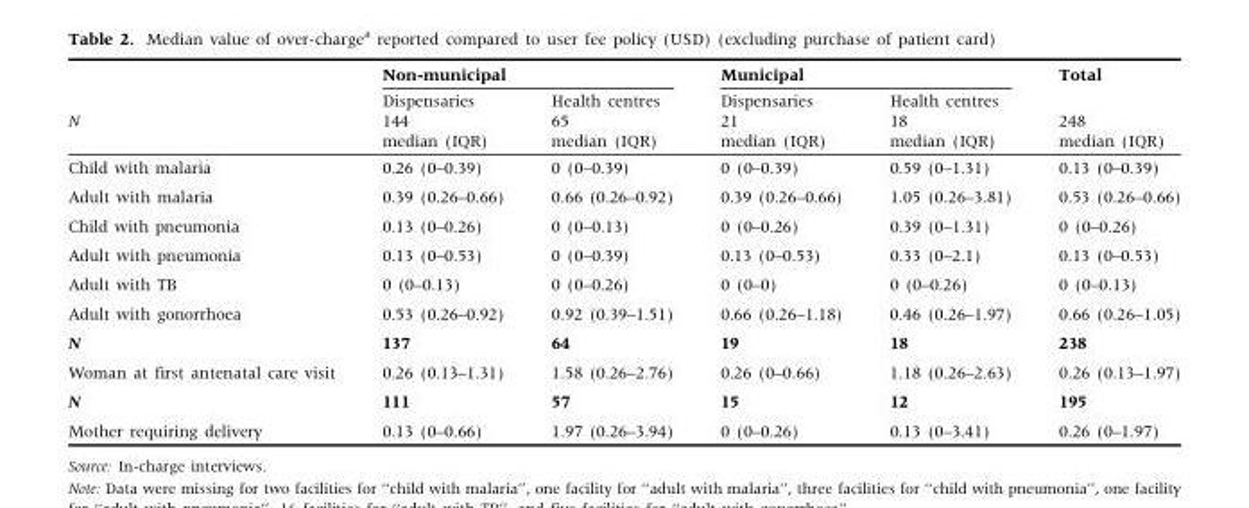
<table><thead><tr><td rowspan="4">N</td><td colspan="2">Non-municipal</td><td colspan="2">Municipal</td><td rowspan="4">Total 248 median (IQR)</td></tr><tr><td rowspan="3">Dispensaries 144 median (IQR)</td><td rowspan="3">Health centres 65 median (IQR)</td><td rowspan="3">Dispensaries 21 median (IQR)</td><td rowspan="3">Health centres 18 median (IQR)</td></tr><tr></tr><tr></tr></thead><tbody><tr><td>Child with malaria</td><td>0.26 (0–0.39)</td><td>0 (0–0.39)</td><td>0 (0–0.39)</td><td>0.59 (0–1.31)</td><td>0.13 (0–0.39)</td></tr><tr><td>Adult with malaria</td><td>0.39 (0.26–0.66)</td><td>0.66 (0.26–0.92)</td><td>0.39 (0.26–0.66)</td><td>1.05 (0.26–3.81)</td><td>0.53 (0.26–0.66)</td></tr><tr><td>Child with pneumonia</td><td>0.13 (0–0.26)</td><td>0 (0–0.13)</td><td>0 (0–0.26)</td><td>0.39 (0–1.31)</td><td>0 (0–0.26)</td></tr><tr><td>Adult with pneumonia</td><td>0.13 (0–0.53)</td><td>0 (0–0.39)</td><td>0.13 (0–0.53)</td><td>0.33 (0–2.1)</td><td>0.13 (0–0.53)</td></tr><tr><td>Adult with TB</td><td>0 (0–0.13)</td><td>0 (0–0.26)</td><td>0 (0–0)</td><td>0 (0–0.26)</td><td>0 (0–0.13)</td></tr><tr><td>Adult with gonorrhoea</td><td>0.53 (0.26–0.92)</td><td>0.92 (0.39–1.51)</td><td>0.66 (0.26–1.18)</td><td>0.46 (0.26–1.97)</td><td>0.66 (0.26–1.05)</td></tr><tr><td>N</td><td>137</td><td>64</td><td>19</td><td>18</td><td>238</td></tr><tr><td>Woman at first antenatal care visit</td><td>0.26 (0.13–1.31)</td><td>1.58 (0.26–2.76)</td><td>0.26 (0–0.66)</td><td>1.18 (0.26–2.63)</td><td>0.26 (0.13–1.97)</td></tr><tr><td>N</td><td>111</td><td>57</td><td>15</td><td>12</td><td>195</td></tr><tr><td>Mother requiring delivery</td><td>0.13 (0–0.66)</td><td>1.97 (0.26–3.94)</td><td>0 (0–0.26)</td><td>0.13 (0–3.41)</td><td>0.26 (0–1.97)</td></tr></tbody></table>